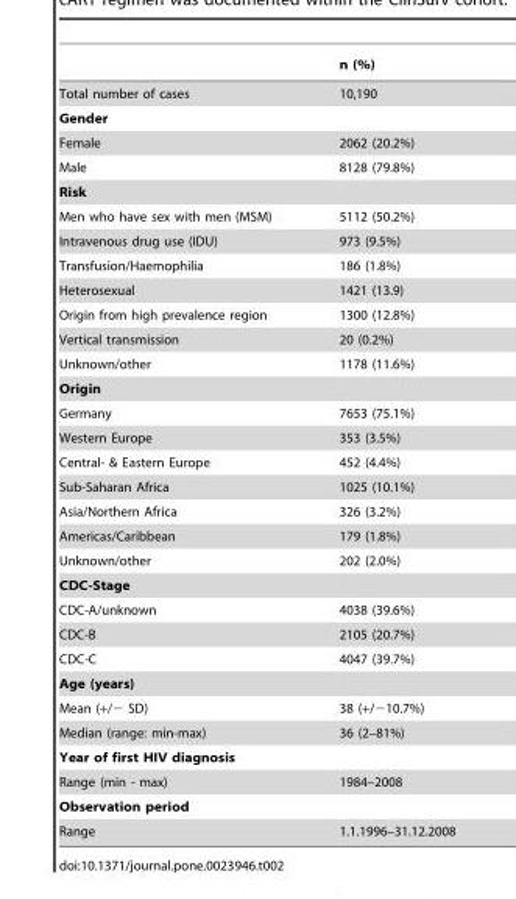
<table><thead><tr><td></td><td>n (%)</td></tr></thead><tbody><tr><td>Total number of cases</td><td>10,190</td></tr><tr><td colspan="2">Gender</td></tr><tr><td>Female</td><td>2062 (20.2%)</td></tr><tr><td>Male</td><td>8128 (79.8%)</td></tr><tr><td colspan="2">Risk</td></tr><tr><td>Men who have sex with men (MSM)</td><td>5112 (50.2%)</td></tr><tr><td>Intravenous drug use (IDU)</td><td>973 (9.5%)</td></tr><tr><td>Transfusion/Haemophilia</td><td>186 (1.8%)</td></tr><tr><td>Heterosexual</td><td>1421 (13.9)</td></tr><tr><td>Origin from high prevalence region</td><td>1300 (12.8%)</td></tr><tr><td>Vertical transmission</td><td>20 (0.2%)</td></tr><tr><td>Unknown/other</td><td>1178 (11.6%)</td></tr><tr><td colspan="2">Origin</td></tr><tr><td>Germany</td><td>7653 (75.1%)</td></tr><tr><td>Western Europe</td><td>353 (3.5%)</td></tr><tr><td>Central- &amp; Eastern Europe</td><td>452 (4.4%)</td></tr><tr><td>Sub-Saharan Africa</td><td>1025 (10.1%)</td></tr><tr><td>Asia/Northern Africa</td><td>326 (3.2%)</td></tr><tr><td>Americas/Caribbean</td><td>179 (1.8%)</td></tr><tr><td>Unknown/other</td><td>202 (2.0%)</td></tr><tr><td colspan="2">CDC-Stage</td></tr><tr><td>CDC-A/unknown</td><td>4038 (39.6%)</td></tr><tr><td>CDC-B</td><td>2105 (20.7%)</td></tr><tr><td>CDC-C</td><td>4047 (39.7%)</td></tr><tr><td colspan="2">Age (years)</td></tr><tr><td>Mean (+/− SD)</td><td>38 (+/−10.7%)</td></tr><tr><td>Median (range: min-max)</td><td>36 (2–81%)</td></tr><tr><td colspan="2">Year of first HIV diagnosis</td></tr><tr><td>Range (min - max)</td><td>1984–2008</td></tr><tr><td colspan="2">Observation period</td></tr><tr><td>Range</td><td>1.1.1996–31.12.2008</td></tr></tbody></table>